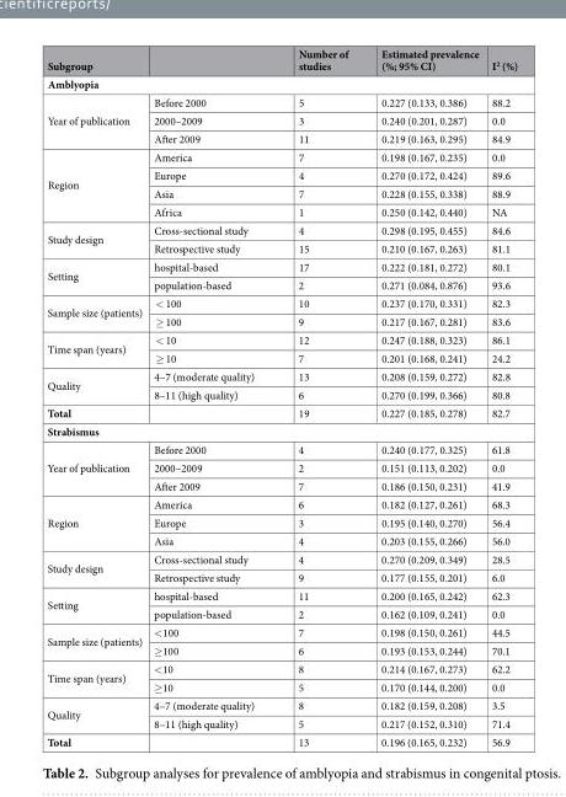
<table><thead><tr><td>Subgroup</td><td></td><td>Number of studies</td><td>Estimated prevalence (%; 95% CI)</td><td>I<sup>2</sup> (%)</td></tr></thead><tbody><tr><td colspan="5">Amblyopia</td></tr><tr><td rowspan="3">Year of publication</td><td>Before 2000</td><td>5</td><td>0.227 (0.133, 0.386)</td><td>88.2</td></tr><tr><td>2000–2009</td><td>3</td><td>0.240 (0.201, 0.287)</td><td>0.0</td></tr><tr><td>After 2009</td><td>11</td><td>0.219 (0.163, 0.295)</td><td>84.9</td></tr><tr><td rowspan="4">Region</td><td>America</td><td>7</td><td>0.198 (0.167, 0.235)</td><td>0.0</td></tr><tr><td>Europe</td><td>4</td><td>0.270 (0.172, 0.424)</td><td>89.6</td></tr><tr><td>Asia</td><td>7</td><td>0.228 (0.155, 0.338)</td><td>88.9</td></tr><tr><td>Africa</td><td>1</td><td>0.250 (0.142, 0.440)</td><td>NA</td></tr><tr><td rowspan="2">Study design</td><td>Cross-sectional study</td><td>4</td><td>0.298 (0.195, 0.455)</td><td>84.6</td></tr><tr><td>Retrospective study</td><td>15</td><td>0.210 (0.167, 0.263)</td><td>81.1</td></tr><tr><td rowspan="2">Setting</td><td>hospital-based</td><td>17</td><td>0.222 (0.181, 0.272)</td><td>80.1</td></tr><tr><td>population-based</td><td>2</td><td>0.271 (0.084, 0.876)</td><td>93.6</td></tr><tr><td rowspan="2">Sample size (patients)</td><td>&lt; 100</td><td>10</td><td>0.237 (0.170, 0.331)</td><td>82.3</td></tr><tr><td>≥ 100</td><td>9</td><td>0.217 (0.167, 0.281)</td><td>83.6</td></tr><tr><td rowspan="2">Time span (years)</td><td>&lt; 10</td><td>12</td><td>0.247 (0.188, 0.323)</td><td>86.1</td></tr><tr><td>≥ 10</td><td>7</td><td>0.201 (0.168, 0.241)</td><td>24.2</td></tr><tr><td rowspan="2">Quality</td><td>4–7 (moderate quality)</td><td>13</td><td>0.208 (0.159, 0.272)</td><td>82.8</td></tr><tr><td>8–11 (high quality)</td><td>6</td><td>0.270 (0.199, 0.366)</td><td>80.8</td></tr><tr><td>Total</td><td></td><td>19</td><td>0.227 (0.185, 0.278)</td><td>82.7</td></tr><tr><td colspan="5">Strabismus</td></tr><tr><td rowspan="3">Year of publication</td><td>Before 2000</td><td>4</td><td>0.240 (0.177, 0.325)</td><td>61.8</td></tr><tr><td>2000–2009</td><td>2</td><td>0.151 (0.113, 0.202)</td><td>0.0</td></tr><tr><td>After 2009</td><td>7</td><td>0.186 (0.150, 0.231)</td><td>41.9</td></tr><tr><td rowspan="3">Region</td><td>America</td><td>6</td><td>0.182 (0.127, 0.261)</td><td>68.3</td></tr><tr><td>Europe</td><td>3</td><td>0.195 (0.140, 0.270)</td><td>56.4</td></tr><tr><td>Asia</td><td>4</td><td>0.203 (0.155, 0.266)</td><td>56.0</td></tr><tr><td rowspan="2">Study design</td><td>Cross-sectional study</td><td>4</td><td>0.270 (0.209, 0.349)</td><td>28.5</td></tr><tr><td>Retrospective study</td><td>9</td><td>0.177 (0.155, 0.201)</td><td>6.0</td></tr><tr><td rowspan="2">Setting</td><td>hospital-based</td><td>11</td><td>0.200 (0.165, 0.242)</td><td>62.3</td></tr><tr><td>population-based</td><td>2</td><td>0.162 (0.109, 0.241)</td><td>0.0</td></tr><tr><td rowspan="2">Sample size (patients)</td><td>&lt;100</td><td>7</td><td>0.198 (0.150, 0.261)</td><td>44.5</td></tr><tr><td>≥100</td><td>6</td><td>0.193 (0.153, 0.244)</td><td>70.1</td></tr><tr><td rowspan="2">Time span (years)</td><td>&lt;10</td><td>8</td><td>0.214 (0.167, 0.273)</td><td>62.2</td></tr><tr><td>≥10</td><td>5</td><td>0.170 (0.144, 0.200)</td><td>0.0</td></tr><tr><td rowspan="2">Quality</td><td>4–7 (moderate quality)</td><td>8</td><td>0.182 (0.159, 0.208)</td><td>3.5</td></tr><tr><td>8–11 (high quality)</td><td>5</td><td>0.217 (0.152, 0.310)</td><td>71.4</td></tr><tr><td>Total</td><td></td><td>13</td><td>0.196 (0.165, 0.232)</td><td>56.9</td></tr></tbody></table>